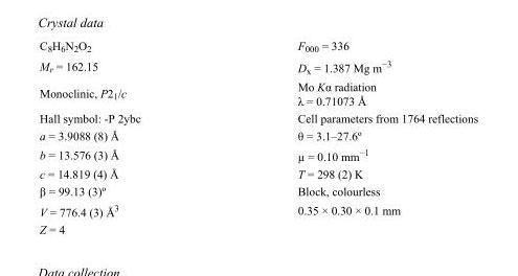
<table><tbody><tr><td>C<sub>8</sub>H<sub>6</sub>N<sub>2</sub>O<sub>2</sub></td><td>F000 = 336</td></tr><tr><td>M<sub>r</sub> = 162.15</td><td>D<sub>x</sub> = 1.387 Mg m<sup>−3</sup></td></tr><tr><td>Monoclinic, P2<sub>1</sub>/c</td><td>Mo Kα radiation λ = 0.71073 Å</td></tr><tr><td>Hall symbol: -P 2ybc</td><td>Cell parameters from 1764 reflections</td></tr><tr><td>a = 3.9088 (8) Å</td><td>θ = 3.1–27.6º</td></tr><tr><td>b = 13.576 (3) Å</td><td>µ = 0.10 mm<sup>−1</sup></td></tr><tr><td>c = 14.819 (4) Å</td><td>T = 298 (2) K</td></tr><tr><td>β = 99.13 (3)º</td><td>Block, colourless</td></tr><tr><td>V = 776.4 (3) Å<sup>3</sup></td><td>0.35 × 0.30 × 0.1 mm</td></tr><tr><td>Z = 4</td><td></td></tr></tbody></table>